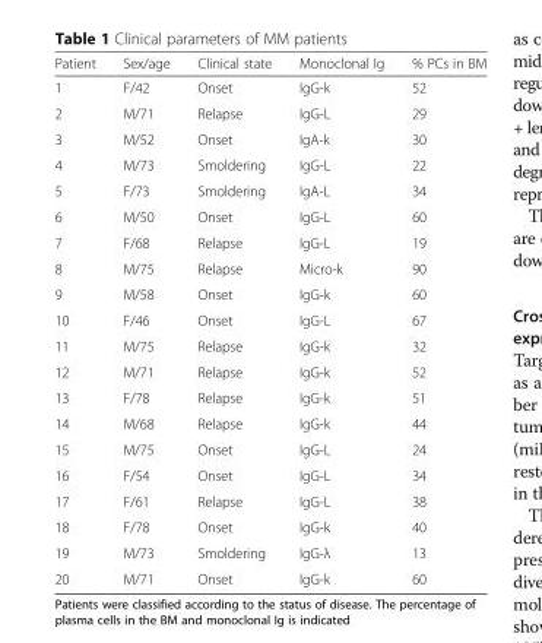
<table><thead><tr><td>Patient</td><td>Sex/age</td><td>Clinical state</td><td>Monoclonal Ig</td><td>% PCs in BM</td></tr></thead><tbody><tr><td>1</td><td>F/42</td><td>Onset</td><td>IgG-k</td><td>52</td></tr><tr><td>2</td><td>M/71</td><td>Relapse</td><td>IgG-L</td><td>29</td></tr><tr><td>3</td><td>M/52</td><td>Onset</td><td>IgA-k</td><td>30</td></tr><tr><td>4</td><td>M/73</td><td>Smoldering</td><td>IgG-L</td><td>22</td></tr><tr><td>5</td><td>F/73</td><td>Smoldering</td><td>IgA-L</td><td>34</td></tr><tr><td>6</td><td>M/50</td><td>Onset</td><td>IgG-L</td><td>60</td></tr><tr><td>7</td><td>F/68</td><td>Relapse</td><td>IgG-L</td><td>19</td></tr><tr><td>8</td><td>M/75</td><td>Relapse</td><td>Micro-k</td><td>90</td></tr><tr><td>9</td><td>M/58</td><td>Onset</td><td>IgG-k</td><td>60</td></tr><tr><td>10</td><td>F/46</td><td>Onset</td><td>IgG-L</td><td>67</td></tr><tr><td>11</td><td>M/75</td><td>Relapse</td><td>IgG-k</td><td>32</td></tr><tr><td>12</td><td>M/71</td><td>Relapse</td><td>IgG-k</td><td>52</td></tr><tr><td>13</td><td>F/78</td><td>Relapse</td><td>IgG-k</td><td>51</td></tr><tr><td>14</td><td>M/68</td><td>Relapse</td><td>IgG-k</td><td>44</td></tr><tr><td>15</td><td>M/75</td><td>Onset</td><td>IgG-L</td><td>24</td></tr><tr><td>16</td><td>F/54</td><td>Onset</td><td>IgG-L</td><td>34</td></tr><tr><td>17</td><td>F/61</td><td>Relapse</td><td>IgG-L</td><td>38</td></tr><tr><td>18</td><td>F/78</td><td>Onset</td><td>IgG-k</td><td>40</td></tr><tr><td>19</td><td>M/73</td><td>Smoldering</td><td>IgG-λ</td><td>13</td></tr><tr><td>20</td><td>M/71</td><td>Onset</td><td>IgG-k</td><td>60</td></tr></tbody></table>